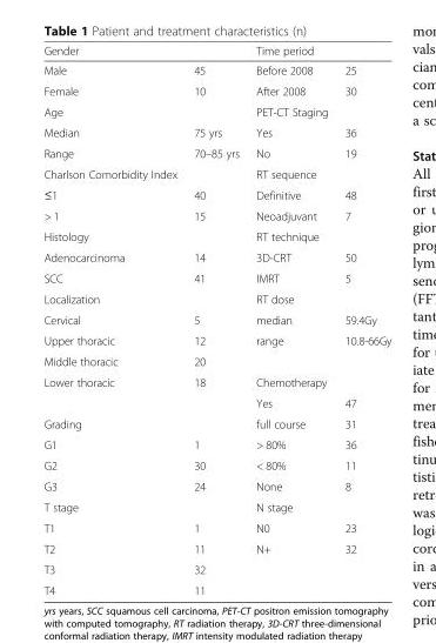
<table><thead><tr><td colspan="2">Gender</td><td colspan="2">Time period</td></tr><tr><td>Male</td><td>45</td><td>Before 2008</td><td>25</td></tr></thead><tbody><tr><td>Female</td><td>10</td><td>After 2008</td><td>30</td></tr><tr><td>Age</td><td></td><td>PET-CT Staging</td><td></td></tr><tr><td>Median</td><td>75 yrs</td><td>Yes</td><td>36</td></tr><tr><td>Range</td><td>70–85 yrs</td><td>No</td><td>19</td></tr><tr><td>Charlson Comorbidity Index</td><td></td><td>RT sequence</td><td></td></tr><tr><td>≤1</td><td>40</td><td>Definitive</td><td>48</td></tr><tr><td>&gt; 1</td><td>15</td><td>Neoadjuvant</td><td>7</td></tr><tr><td>Histology</td><td></td><td>RT technique</td><td></td></tr><tr><td>Adenocarcinoma</td><td>14</td><td>3D-CRT</td><td>50</td></tr><tr><td>SCC</td><td>41</td><td>IMRT</td><td>5</td></tr><tr><td>Localization</td><td></td><td>RT dose</td><td></td></tr><tr><td>Cervical</td><td>5</td><td>median</td><td>59.4Gy</td></tr><tr><td>Upper thoracic</td><td>12</td><td>range</td><td>10.8-66Gy</td></tr><tr><td>Middle thoracic</td><td>20</td><td></td><td></td></tr><tr><td rowspan="2">Lower thoracic</td><td>18</td><td>Chemotherapy</td><td></td></tr><tr><td></td><td>Yes</td><td>47</td></tr><tr><td>Grading</td><td></td><td>full course</td><td>31</td></tr><tr><td>G1</td><td>1</td><td>&gt; 80%</td><td>36</td></tr><tr><td>G2</td><td>30</td><td>&lt; 80%</td><td>11</td></tr><tr><td>G3</td><td>24</td><td>None</td><td>8</td></tr><tr><td>T stage</td><td></td><td>N stage</td><td></td></tr><tr><td>T1</td><td>1</td><td>N0</td><td>23</td></tr><tr><td>T2</td><td>11</td><td>N+</td><td>32</td></tr><tr><td>T3</td><td>32</td><td></td><td></td></tr><tr><td>T4</td><td>11</td><td></td><td></td></tr></tbody></table>